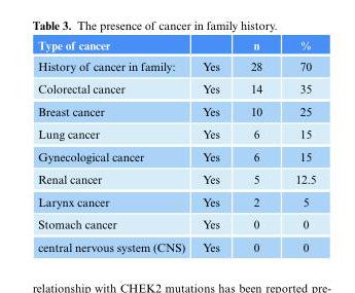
<table><thead><tr><td>Type of cancer</td><td></td><td>n</td><td>%</td></tr></thead><tbody><tr><td>History of cancer in family:</td><td>Yes</td><td>28</td><td>70</td></tr><tr><td>Colorectal cancer</td><td>Yes</td><td>14</td><td>35</td></tr><tr><td>Breast cancer</td><td>Yes</td><td>10</td><td>25</td></tr><tr><td>Lung cancer</td><td>Yes</td><td>6</td><td>15</td></tr><tr><td>Gynecological cancer</td><td>Yes</td><td>6</td><td>15</td></tr><tr><td>Renal cancer</td><td>Yes</td><td>5</td><td>12.5</td></tr><tr><td>Larynx cancer</td><td>Yes</td><td>2</td><td>5</td></tr><tr><td>Stomach cancer</td><td>Yes</td><td>0</td><td>0</td></tr><tr><td>central nervous system (CNS)</td><td>Yes</td><td>0</td><td>0</td></tr></tbody></table>